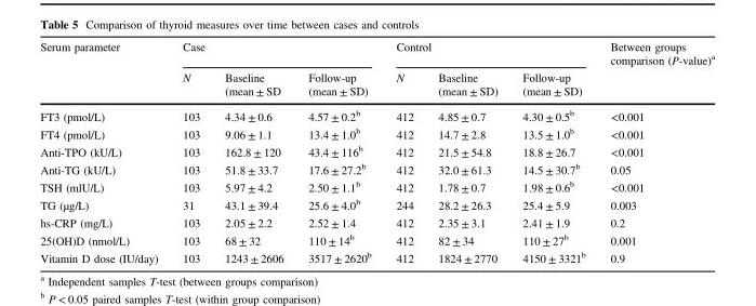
<table><thead><tr><td rowspan="2">Serum parameter</td><td colspan="3">Case</td><td colspan="3">Control</td><td rowspan="2">Between groups comparison (P-value)<sup>a</sup></td></tr><tr><td>N</td><td>Baseline (mean ± SD</td><td>Follow-up (mean ± SD)</td><td>N</td><td>Baseline (mean ± SD)</td><td>Follow-up (mean ± SD)</td></tr></thead><tbody><tr><td>FT3 (pmol/L)</td><td>103</td><td>4.34 ± 0.6</td><td>4.57 ± 0.2<sup>b</sup></td><td>412</td><td>4.85 ± 0.7</td><td>4.30 ± 0.5<sup>b</sup></td><td>&lt;0.001</td></tr><tr><td>FT4 (pmol/L)</td><td>103</td><td>9.06 ± 1.1</td><td>13.4 ± 1.0<sup>b</sup></td><td>412</td><td>14.7 ± 2.8</td><td>13.5 ± 1.0<sup>b</sup></td><td>&lt;0.001</td></tr><tr><td>Anti-TPO (kU/L)</td><td>103</td><td>162.8 ± 120</td><td>43.4 ± 116<sup>b</sup></td><td>412</td><td>21.5 ± 54.8</td><td>18.8 ± 26.7</td><td>&lt;0.001</td></tr><tr><td>Anti-TG (kU/L)</td><td>103</td><td>51.8 ± 33.7</td><td>17.6 ± 27.2<sup>b</sup></td><td>412</td><td>32.0 ± 61.3</td><td>14.5 ± 30.7<sup>b</sup></td><td>0.05</td></tr><tr><td>TSH (mlU/L)</td><td>103</td><td>5.97 ± 4.2</td><td>2.50 ± 1.1<sup>b</sup></td><td>412</td><td>1.78 ± 0.7</td><td>1.98 ± 0.6<sup>b</sup></td><td>&lt;0.001</td></tr><tr><td>TG (µg/L)</td><td>31</td><td>43.1 ± 39.4</td><td>25.6 ± 4.0<sup>b</sup></td><td>244</td><td>28.2 ± 26.3</td><td>25.4 ± 5.9</td><td>0.003</td></tr><tr><td>hs-CRP (mg/L)</td><td>103</td><td>2.05 ± 2.2</td><td>2.52 ± 1.4</td><td>412</td><td>2.35 ± 3.1</td><td>2.41 ± 1.9</td><td>0.2</td></tr><tr><td>25(OH)D (nmol/L)</td><td>103</td><td>68 ± 32</td><td>110 ± 14<sup>b</sup></td><td>412</td><td>82 ± 34</td><td>110 ± 27<sup>b</sup></td><td>0.001</td></tr><tr><td>Vitamin D dose (IU/day)</td><td>103</td><td>1243 ± 2606</td><td>3517 ± 2620<sup>b</sup></td><td>412</td><td>1824 ± 2770</td><td>4150 ± 3321<sup>b</sup></td><td>0.9</td></tr></tbody></table>